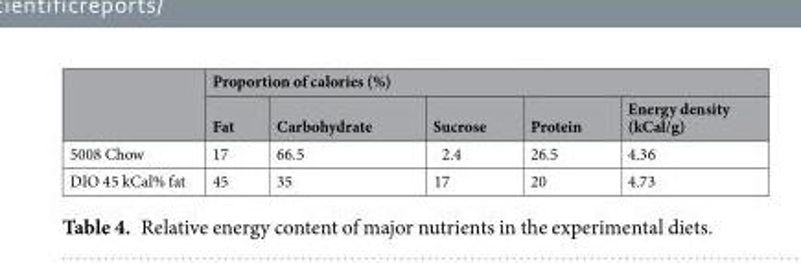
<table><thead><tr><td rowspan="2"></td><td colspan="5">Proportion of calories (%)</td></tr><tr><td>Fat</td><td>Carbohydrate</td><td>Sucrose</td><td>Protein</td><td>Energy density (kCal/g)</td></tr></thead><tbody><tr><td>5008 Chow</td><td>17</td><td>66.5</td><td>2.4</td><td>26.5</td><td>4.36</td></tr><tr><td>DIO 45 kCal% fat</td><td>45</td><td>35</td><td>17</td><td>20</td><td>4.73</td></tr></tbody></table>